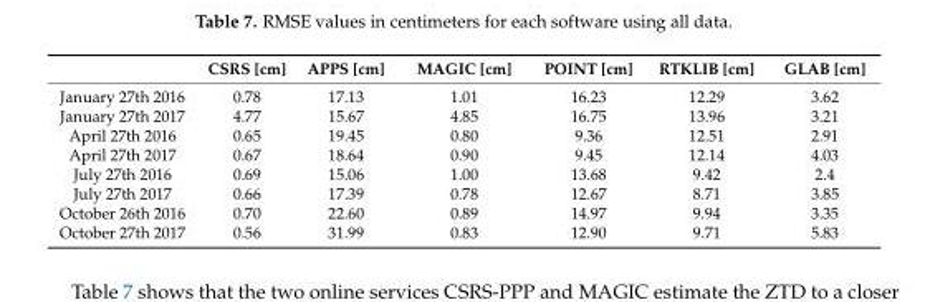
<table><thead><tr><td></td><td>CSRS [cm]</td><td>APPS [cm]</td><td>MAGIC [cm]</td><td>POINT [cm]</td><td>RTKLIB [cm]</td><td>GLAB [cm]</td></tr></thead><tbody><tr><td>January 27th 2016</td><td>0.78</td><td>17.13</td><td>1.01</td><td>16.23</td><td>12.29</td><td>3.62</td></tr><tr><td>January 27th 2017</td><td>4.77</td><td>15.67</td><td>4.85</td><td>16.75</td><td>13.96</td><td>3.21</td></tr><tr><td>April 27th 2016</td><td>0.65</td><td>19.45</td><td>0.80</td><td>9.36</td><td>12.51</td><td>2.91</td></tr><tr><td>April 27th 2017</td><td>0.67</td><td>18.64</td><td>0.90</td><td>9.45</td><td>12.14</td><td>4.03</td></tr><tr><td>July 27th 2016</td><td>0.69</td><td>15.06</td><td>1.00</td><td>13.68</td><td>9.42</td><td>2.4</td></tr><tr><td>July 27th 2017</td><td>0.66</td><td>17.39</td><td>0.78</td><td>12.67</td><td>8.71</td><td>3.85</td></tr><tr><td>October 26th 2016</td><td>0.70</td><td>22.60</td><td>0.89</td><td>14.97</td><td>9.94</td><td>3.35</td></tr><tr><td>October 27th 2017</td><td>0.56</td><td>31.99</td><td>0.83</td><td>12.90</td><td>9.71</td><td>5.83</td></tr></tbody></table>